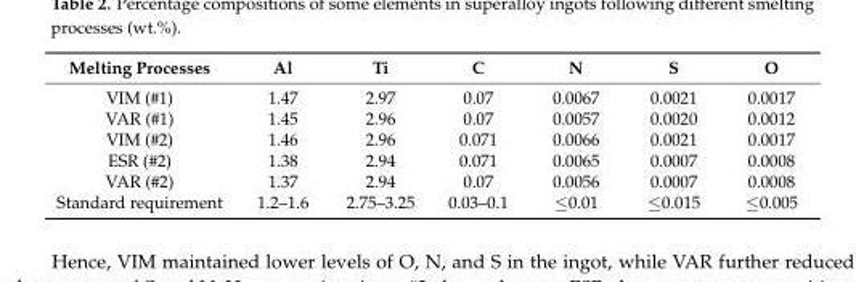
<table><thead><tr><td>Melting Processes</td><td>Al</td><td>Ti</td><td>C</td><td>N</td><td>S</td><td>O</td></tr></thead><tbody><tr><td>VIM (#1)</td><td>1.47</td><td>2.97</td><td>0.07</td><td>0.0067</td><td>0.0021</td><td>0.0017</td></tr><tr><td>VAR (#1)</td><td>1.45</td><td>2.96</td><td>0.07</td><td>0.0057</td><td>0.0020</td><td>0.0012</td></tr><tr><td>VIM (#2)</td><td>1.46</td><td>2.96</td><td>0.071</td><td>0.0066</td><td>0.0021</td><td>0.0017</td></tr><tr><td>ESR (#2)</td><td>1.38</td><td>2.94</td><td>0.071</td><td>0.0065</td><td>0.0007</td><td>0.0008</td></tr><tr><td>VAR (#2)</td><td>1.37</td><td>2.94</td><td>0.07</td><td>0.0056</td><td>0.0007</td><td>0.0008</td></tr><tr><td>Standard requirement</td><td>1.2–1.6</td><td>2.75–3.25</td><td>0.03–0.1</td><td>≤0.01</td><td>≤0.015</td><td>≤0.005</td></tr></tbody></table>